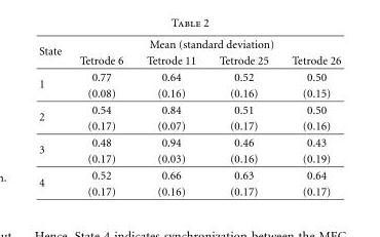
<table><thead><tr><td rowspan="2">State</td><td colspan="4">Mean (standard deviation)</td></tr><tr><td>Tetrode 6</td><td>Tetrode 11</td><td>Tetrode 25</td><td>Tetrode 26</td></tr></thead><tbody><tr><td rowspan="2">1</td><td>0.77</td><td>0.64</td><td>0.52</td><td>0.50</td></tr><tr><td>(0.08)</td><td>(0.16)</td><td>(0.16)</td><td>(0.15)</td></tr><tr><td rowspan="2">2</td><td>0.54</td><td>0.84</td><td>0.51</td><td>0.50</td></tr><tr><td>(0.17)</td><td>(0.07)</td><td>(0.17)</td><td>(0.16)</td></tr><tr><td rowspan="2">3</td><td>0.48</td><td>0.94</td><td>0.46</td><td>0.43</td></tr><tr><td>(0.17)</td><td>(0.03)</td><td>(0.16)</td><td>(0.19)</td></tr><tr><td rowspan="2">4</td><td>0.52</td><td>0.66</td><td>0.63</td><td>0.64</td></tr><tr><td>(0.17)</td><td>(0.16)</td><td>(0.17)</td><td>(0.17)</td></tr></tbody></table>